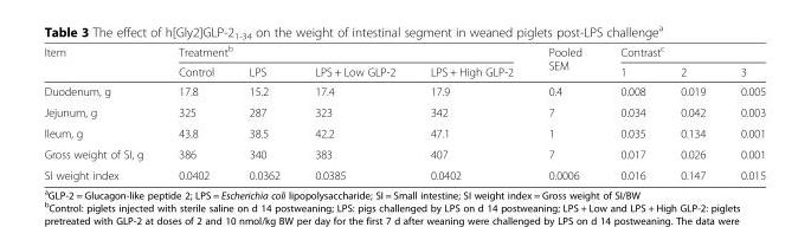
<table><thead><tr><td rowspan="2">Item</td><td colspan="4">Treatment<sup>b</sup></td><td rowspan="2">Pooled SEM</td><td colspan="3">Contrast<sup>c</sup></td></tr><tr><td>Control</td><td>LPS</td><td>LPS + Low GLP-2</td><td>LPS + High GLP-2</td><td>1</td><td>2</td><td>3</td></tr></thead><tbody><tr><td>Duodenum, g</td><td>17.8</td><td>15.2</td><td>17.4</td><td>17.9</td><td>0.4</td><td>0.008</td><td>0.019</td><td>0.005</td></tr><tr><td>Jejunum, g</td><td>325</td><td>287</td><td>323</td><td>342</td><td>7</td><td>0.034</td><td>0.042</td><td>0.003</td></tr><tr><td>Ileum, g</td><td>43.8</td><td>38.5</td><td>42.2</td><td>47.1</td><td>1</td><td>0.035</td><td>0.134</td><td>0.001</td></tr><tr><td>Gross weight of SI, g</td><td>386</td><td>340</td><td>383</td><td>407</td><td>7</td><td>0.017</td><td>0.026</td><td>0.001</td></tr><tr><td>SI weight index</td><td>0.0402</td><td>0.0362</td><td>0.0385</td><td>0.0402</td><td>0.0006</td><td>0.016</td><td>0.147</td><td>0.015</td></tr></tbody></table>